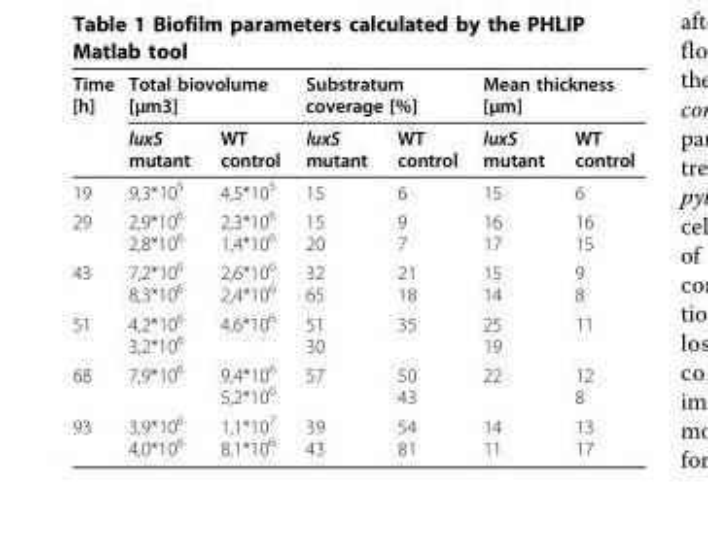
<table><thead><tr><td rowspan="2">Time [h]</td><td colspan="2">Total biovolume [μm3]</td><td colspan="2">Substratum coverage [%]</td><td colspan="2">Mean thickness [μm]</td></tr><tr><td>luxS mutant</td><td>WT control</td><td>luxS mutant</td><td>WT control</td><td>luxS mutant</td><td>WT control</td></tr></thead><tbody><tr><td>19</td><td>9,3*10<sup>5</sup></td><td>4,5*10<sup>5</sup></td><td>15</td><td>6</td><td>15</td><td>6</td></tr><tr><td>29</td><td>2,9*10<sup>6</sup> 2,8*10<sup>6</sup></td><td>2,3*10<sup>6</sup> 1,4*10<sup>6</sup></td><td>15 20</td><td>9 7</td><td>16 17</td><td>16 15</td></tr><tr><td>43</td><td>7,2*10<sup>6</sup> 8,3*10<sup>6</sup></td><td>2,6*10<sup>6</sup> 2,4*10<sup>6</sup></td><td>32 65</td><td>21 18</td><td>15 14</td><td>9 8</td></tr><tr><td>51</td><td>4,2*10<sup>6</sup> 3,2*10<sup>6</sup></td><td>4,6*10<sup>6</sup></td><td>51 30</td><td>35</td><td>25 19</td><td>11</td></tr><tr><td>68</td><td>7,9*10<sup>6</sup></td><td>9,4*10<sup>6</sup> 5,2*10<sup>6</sup></td><td>57</td><td>50 43</td><td>22</td><td>12 8</td></tr><tr><td>93</td><td>3,9*10<sup>6</sup> 4,0*10<sup>6</sup></td><td>1,1*10<sup>7</sup> 8,1*10<sup>6</sup></td><td>39 43</td><td>54 81</td><td>14 11</td><td>13 17</td></tr></tbody></table>